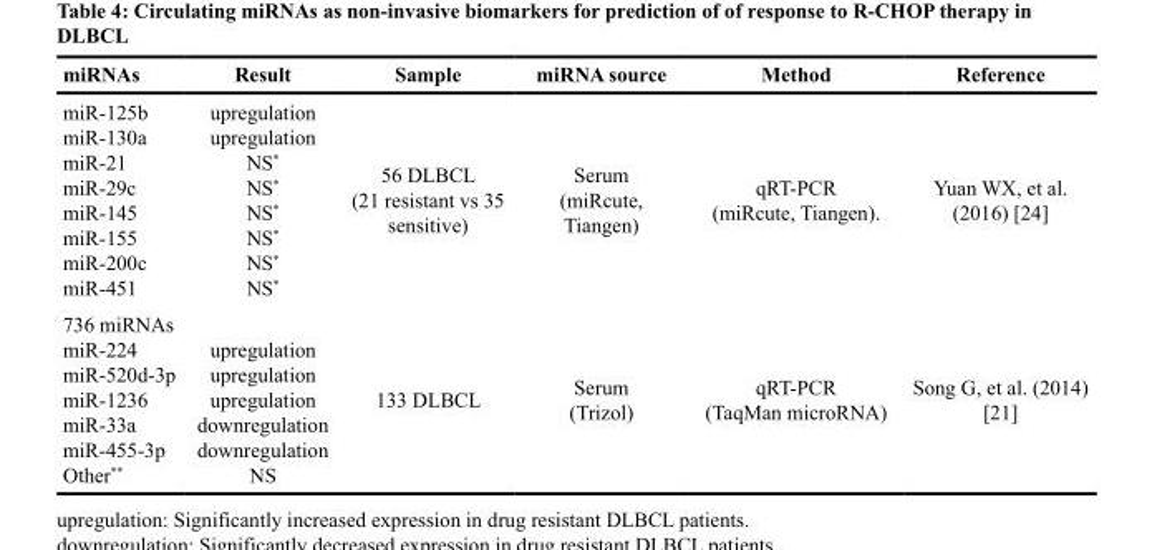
<table><thead><tr><td>miRNAs</td><td>Result</td><td>Sample</td><td>miRNA source</td><td>Method</td><td>Reference</td></tr></thead><tbody><tr><td>miR-125b miR-130a miR-21 miR-29c miR-145 miR-155 miR-200c miR-451</td><td>upregulation upregulation NS* NS* NS* NS* NS* NS*</td><td>56 DLBCL (21 resistant vs 35 sensitive)</td><td>Serum (miRcute, Tiangen)</td><td>qRT-PCR (miRcute, Tiangen).</td><td>Yuan WX, et al. (2016) [24]</td></tr><tr><td>736 miRNAs miR-224 miR-520d-3p miR-1236 miR-33a miR-455-3p Other**</td><td>upregulation upregulation upregulation downregulation downregulation NS</td><td>133 DLBCL</td><td>Serum (Trizol)</td><td>qRT-PCR (TaqMan microRNA)</td><td>Song G, et al. (2014) [21]</td></tr></tbody></table>